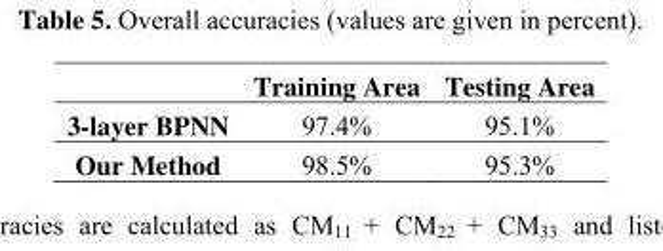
<table><thead><tr><td></td><td>Training Area</td><td>Testing Area</td></tr></thead><tbody><tr><td>3-layer BPNN</td><td>97.4%</td><td>95.1%</td></tr><tr><td>Our Method</td><td>98.5%</td><td>95.3%</td></tr></tbody></table>